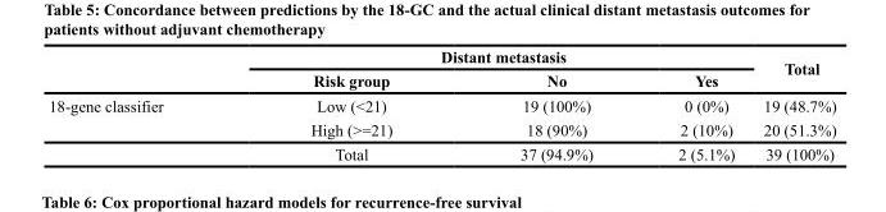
<table><thead><tr><td rowspan="2"></td><td colspan="3">Distant metastasis</td><td rowspan="2">Total</td></tr><tr><td>Risk group</td><td>No</td><td>Yes</td></tr></thead><tbody><tr><td rowspan="3">18-gene classifier</td><td>Low (&lt;21)</td><td>19 (100%)</td><td>0 (0%)</td><td>19 (48.7%)</td></tr><tr><td>High (&gt;=21)</td><td>18 (90%)</td><td>2 (10%)</td><td>20 (51.3%)</td></tr><tr><td>Total</td><td>37 (94.9%)</td><td>2 (5.1%)</td><td>39 (100%)</td></tr></tbody></table>